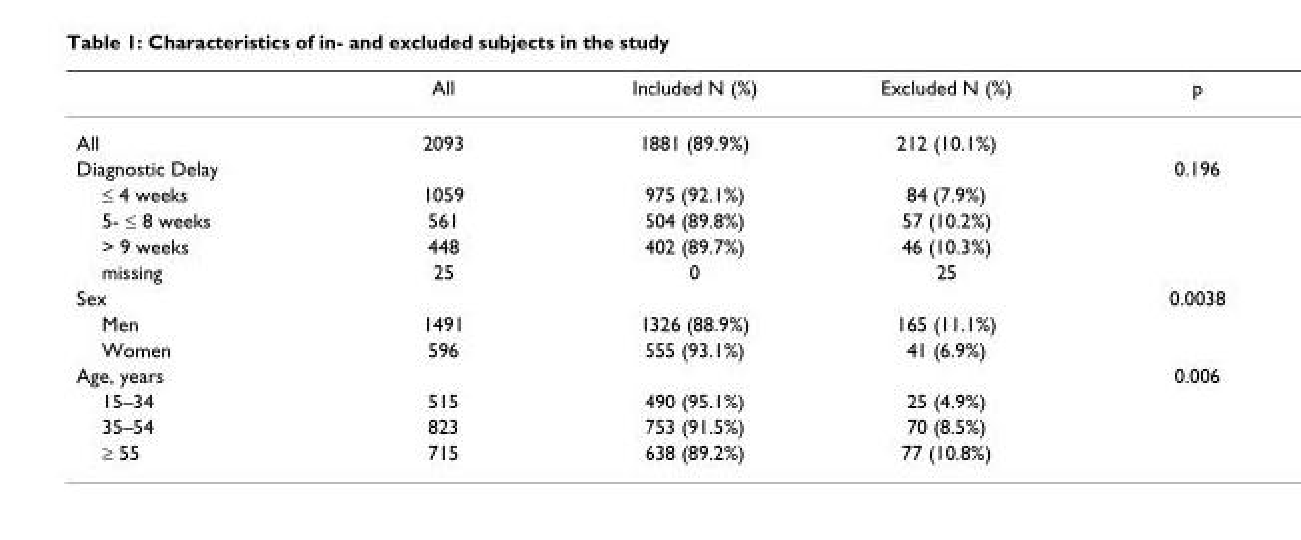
<table><thead><tr><td></td><td>All</td><td>Included N (%)</td><td>Excluded N (%)</td><td>p</td></tr></thead><tbody><tr><td>All</td><td>2093</td><td>1881 (89.9%)</td><td>212 (10.1%)</td><td></td></tr><tr><td>Diagnostic Delay</td><td></td><td></td><td></td><td>0.196</td></tr><tr><td>≤ 4 weeks</td><td>1059</td><td>975 (92.1%)</td><td>84 (7.9%)</td><td></td></tr><tr><td>5- ≤ 8 weeks</td><td>561</td><td>504 (89.8%)</td><td>57 (10.2%)</td><td></td></tr><tr><td>&gt; 9 weeks</td><td>448</td><td>402 (89.7%)</td><td>46 (10.3%)</td><td></td></tr><tr><td>missing</td><td>25</td><td>0</td><td>25</td><td></td></tr><tr><td>Sex</td><td></td><td></td><td></td><td>0.0038</td></tr><tr><td>Men</td><td>1491</td><td>1326 (88.9%)</td><td>165 (11.1%)</td><td></td></tr><tr><td>Women</td><td>596</td><td>555 (93.1%)</td><td>41 (6.9%)</td><td></td></tr><tr><td>Age, years</td><td></td><td></td><td></td><td>0.006</td></tr><tr><td>15–34</td><td>515</td><td>490 (95.1%)</td><td>25 (4.9%)</td><td></td></tr><tr><td>35–54</td><td>823</td><td>753 (91.5%)</td><td>70 (8.5%)</td><td></td></tr><tr><td>≥ 55</td><td>715</td><td>638 (89.2%)</td><td>77 (10.8%)</td><td></td></tr></tbody></table>